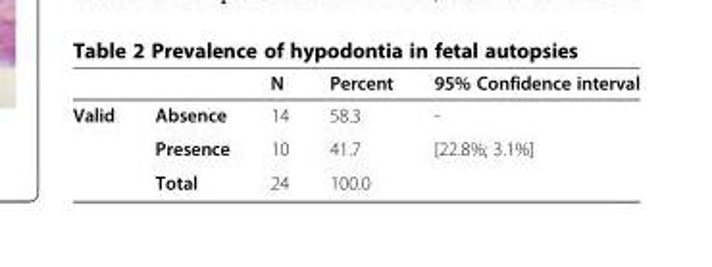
<table><thead><tr><td></td><td></td><td>N</td><td>Percent</td><td>95% Confidence interval</td></tr></thead><tbody><tr><td rowspan="3">Valid</td><td>Absence</td><td>14</td><td>58.3</td><td>-</td></tr><tr><td>Presence</td><td>10</td><td>41.7</td><td>[22.8%; 3.1%]</td></tr><tr><td>Total</td><td>24</td><td>100.0</td><td></td></tr></tbody></table>